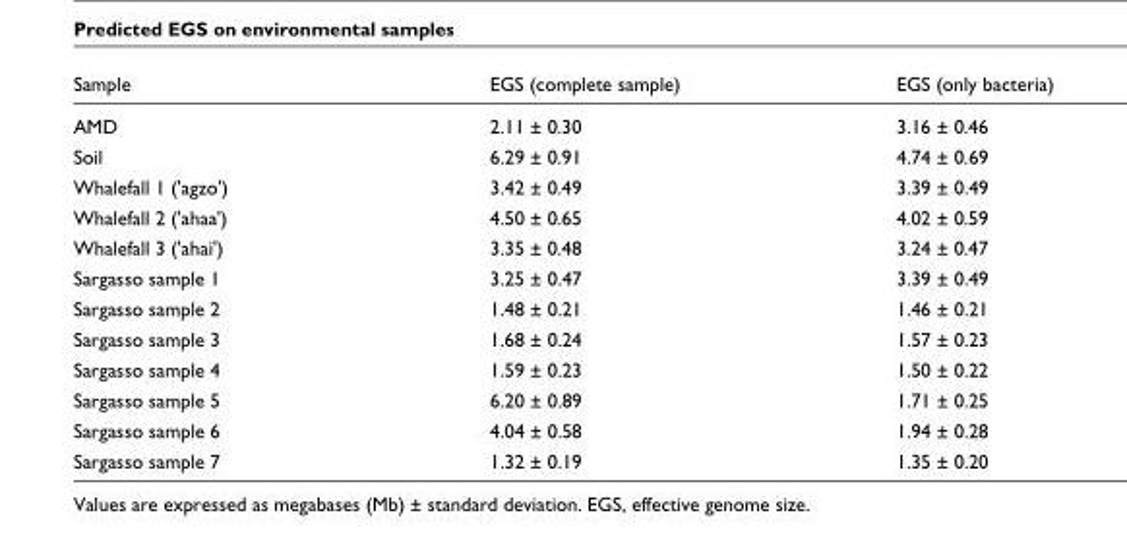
<table><thead><tr><td>Sample</td><td>EGS (complete sample)</td><td>EGS (only bacteria)</td></tr></thead><tbody><tr><td>AMD</td><td>2.11 ± 0.30</td><td>3.16 ± 0.46</td></tr><tr><td>Soil</td><td>6.29 ± 0.91</td><td>4.74 ± 0.69</td></tr><tr><td>Whalefall 1 (&#x27;agzo&#x27;)</td><td>3.42 ± 0.49</td><td>3.39 ± 0.49</td></tr><tr><td>Whalefall 2 (&#x27;ahaa&#x27;)</td><td>4.50 ± 0.65</td><td>4.02 ± 0.59</td></tr><tr><td>Whalefall 3 (&#x27;ahai&#x27;)</td><td>3.35 ± 0.48</td><td>3.24 ± 0.47</td></tr><tr><td>Sargasso sample 1</td><td>3.25 ± 0.47</td><td>3.39 ± 0.49</td></tr><tr><td>Sargasso sample 2</td><td>1.48 ± 0.21</td><td>1.46 ± 0.21</td></tr><tr><td>Sargasso sample 3</td><td>1.68 ± 0.24</td><td>1.57 ± 0.23</td></tr><tr><td>Sargasso sample 4</td><td>1.59 ± 0.23</td><td>1.50 ± 0.22</td></tr><tr><td>Sargasso sample 5</td><td>6.20 ± 0.89</td><td>1.71 ± 0.25</td></tr><tr><td>Sargasso sample 6</td><td>4.04 ± 0.58</td><td>1.94 ± 0.28</td></tr><tr><td>Sargasso sample 7</td><td>1.32 ± 0.19</td><td>1.35 ± 0.20</td></tr></tbody></table>